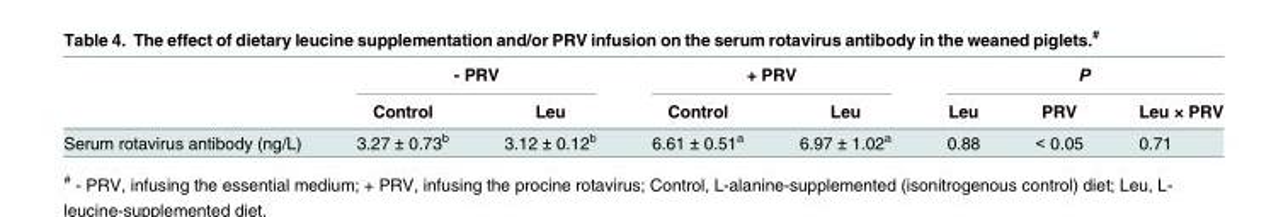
<table><thead><tr><td rowspan="2"></td><td colspan="2">- PRV</td><td colspan="2">+ PRV</td><td colspan="3">P</td></tr><tr><td>Control</td><td>Leu</td><td>Control</td><td>Leu</td><td>Leu</td><td>PRV</td><td>Leu × PRV</td></tr></thead><tbody><tr><td>Serum rotavirus antibody (ng/L)</td><td>3.27 ± 0.73<sup>b</sup></td><td>3.12 ± 0.12<sup>b</sup></td><td>6.61 ± 0.51<sup>a</sup></td><td>6.97 ± 1.02<sup>a</sup></td><td>0.88</td><td>&lt; 0.05</td><td>0.71</td></tr></tbody></table>